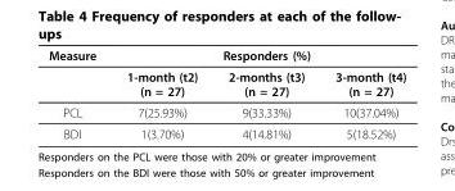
<table><thead><tr><td rowspan="2">Measure</td><td colspan="3">Responders (%)</td></tr><tr><td>1-month (t2) (n = 27)</td><td>2-months (t3) (n = 27)</td><td>3-month (t4) (n = 27)</td></tr></thead><tbody><tr><td>PCL</td><td>7(25.93%)</td><td>9(33.33%)</td><td>10(37.04%)</td></tr><tr><td>BDI</td><td>1(3.70%)</td><td>4(14.81%)</td><td>5(18.52%)</td></tr></tbody></table>